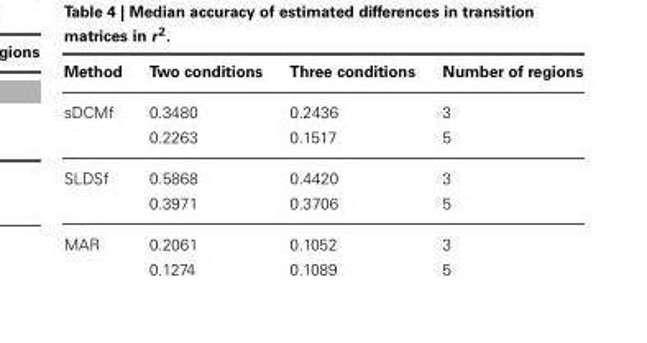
<table><thead><tr><td>Method</td><td>Two conditions</td><td>Three conditions</td><td>Number of regions</td></tr></thead><tbody><tr><td rowspan="2">sDCMf</td><td>0.3480</td><td>0.2436</td><td>3</td></tr><tr><td>0.2263</td><td>0.1517</td><td>5</td></tr><tr><td rowspan="2">SLDSf</td><td>0.5868</td><td>0.4420</td><td>3</td></tr><tr><td>0.3971</td><td>0.3706</td><td>5</td></tr><tr><td rowspan="2">MAR</td><td>0.2061</td><td>0.1052</td><td>3</td></tr><tr><td>0.1274</td><td>0.1089</td><td>5</td></tr></tbody></table>